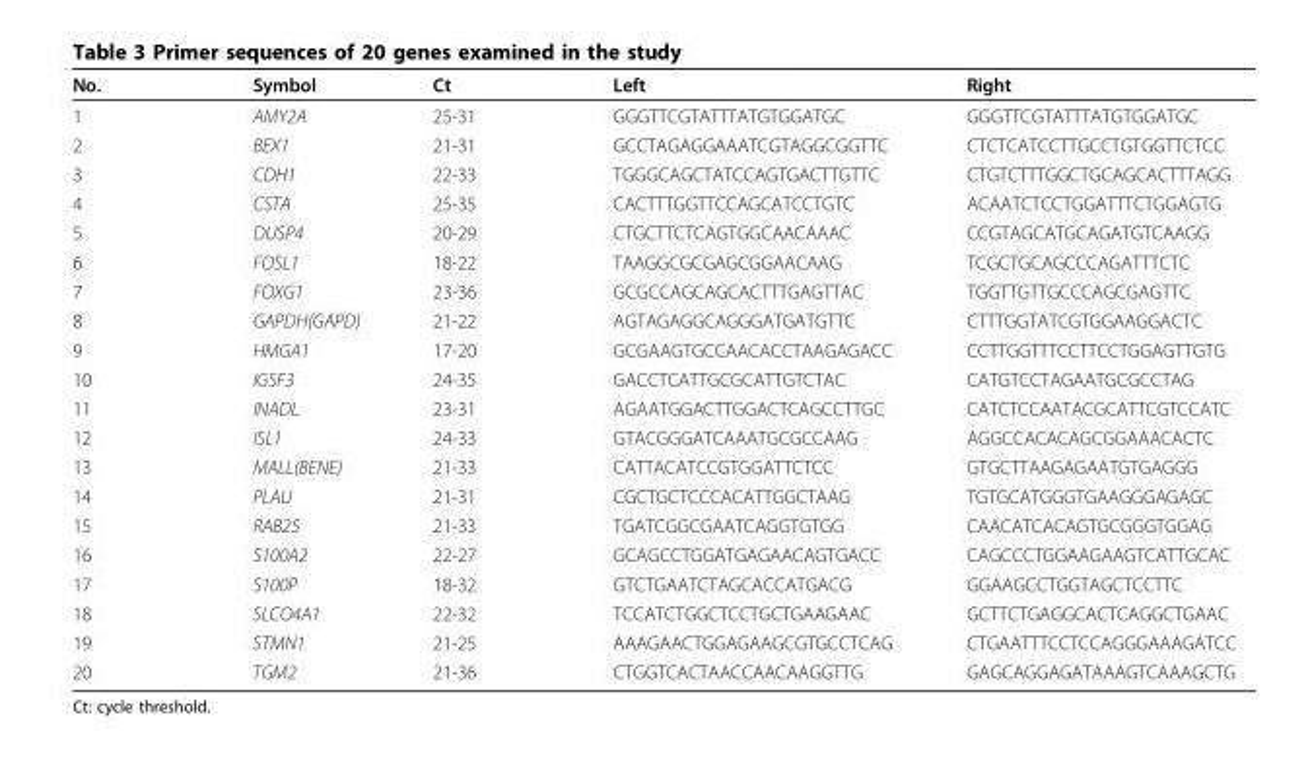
<table><thead><tr><td>No.</td><td>Symbol</td><td>Ct</td><td>Left</td><td>Right</td></tr></thead><tbody><tr><td>1</td><td>AMY2A</td><td>25-31</td><td>GGGTTCGTATTTATGTGGATGC</td><td>GGGTTCGTATTTATGTGGATGC</td></tr><tr><td>2</td><td>BEX1</td><td>21-31</td><td>GCCTAGAGGAAATCGTAGGCGGTTC</td><td>CTCTCATCCTTGCCTGTGGTTCTCC</td></tr><tr><td>3</td><td>CDH1</td><td>22-33</td><td>TGGGCAGCTATCCAGTGACTTGTTC</td><td>CTGTCTTTGGCTGCAGCACTTTAGG</td></tr><tr><td>4</td><td>CSTA</td><td>25-35</td><td>CACTTTGGTTCCAGCATCCTGTC</td><td>ACAATCTCCTGGATTTCTGGAGTG</td></tr><tr><td>5</td><td>DUSP4</td><td>20-29</td><td>CTGCTTCTCAGTGGCAACAAAC</td><td>CCGTAGCATGCAGATGTCAAGG</td></tr><tr><td>6</td><td>FOSL1</td><td>18-22</td><td>TAAGGCGCGAGCGGAACAAG</td><td>TCGCTGCAGCCCAGATTTCTC</td></tr><tr><td>7</td><td>FOXG1</td><td>23-36</td><td>GCGCCAGCAGCACTTTGAGTTAC</td><td>TGGTTGTTGCCCAGCGAGTTC</td></tr><tr><td>8</td><td>GAPDH(GAPD)</td><td>21-22</td><td>AGTAGAGGCAGGGATGATGTTC</td><td>CTTTGGTATCGTGGAAGGACTC</td></tr><tr><td>9</td><td>HMGA1</td><td>17-20</td><td>GCGAAGTGCCAACACCTAAGAGACC</td><td>CCTTGGTTTCCTTCCTGGAGTTGTG</td></tr><tr><td>10</td><td>IGSF3</td><td>24-35</td><td>GACCTCATTGCGCATTGTCTAC</td><td>CATGTCCTAGAATGCGCCTAG</td></tr><tr><td>11</td><td>INADL</td><td>23-31</td><td>AGAATGGACTTGGACTCAGCCTTGC</td><td>CATCTCCAATACGCATTCGTCCATC</td></tr><tr><td>12</td><td>ISL1</td><td>24-33</td><td>GTACGGGATCAAATGCGCCAAG</td><td>AGGCCACACAGCGGAAACACTC</td></tr><tr><td>13</td><td>MALL(BENE)</td><td>21-33</td><td>CATTACATCCGTGGATTCTCC</td><td>GTGCTTAAGAGAATGTGAGGG</td></tr><tr><td>14</td><td>PLAU</td><td>21-31</td><td>CGCTGCTCCCACATTGGCTAAG</td><td>TGTGCATGGGTGAAGGGAGAGC</td></tr><tr><td>15</td><td>RAB25</td><td>21-33</td><td>TGATCGGCGAATCAGGTGTGG</td><td>CAACATCACAGTGCGGGTGGAG</td></tr><tr><td>16</td><td>S100A2</td><td>22-27</td><td>GCAGCCTGGATGAGAACAGTGACC</td><td>CAGCCCTGGAAGAAGTCATTGCAC</td></tr><tr><td>17</td><td>S100P</td><td>18-32</td><td>GTCTGAATCTAGCACCATGACG</td><td>GGAAGCCTGGTAGCTCCTTC</td></tr><tr><td>18</td><td>SLCO4A1</td><td>22-32</td><td>TCCATCTGGCTCCTGCTGAAGAAC</td><td>GCTTCTGAGGCACTCAGGCTGAAC</td></tr><tr><td>19</td><td>STMN1</td><td>21-25</td><td>AAAGAACTGGAGAAGCGTGCCTCAG</td><td>CTGAATTTCCTCCAGGGAAAGATCC</td></tr><tr><td>20</td><td>TGM2</td><td>21-36</td><td>CTGGTCACTAACCAACAAGGTTG</td><td>GAGCAGGAGATAAAGTCAAAGCTG</td></tr></tbody></table>